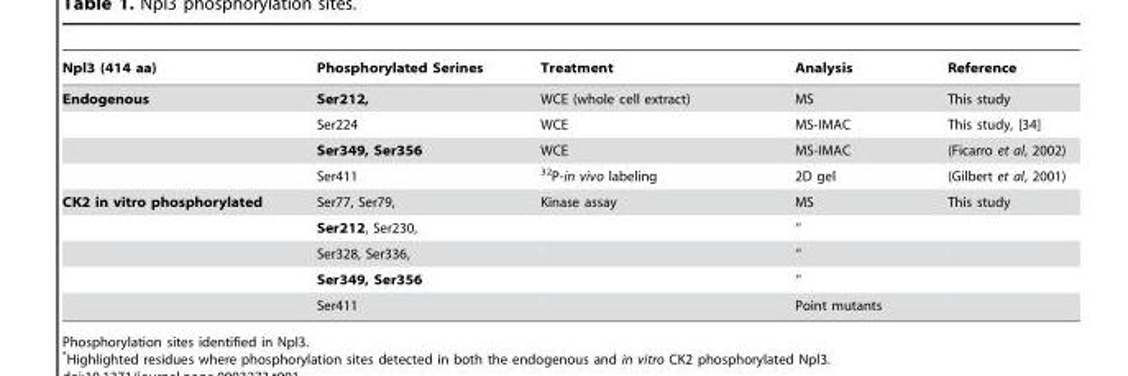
<table><thead><tr><td>Npl3 (414 aa)</td><td>Phosphorylated Serines</td><td>Treatment</td><td>Analysis</td><td>Reference</td></tr></thead><tbody><tr><td rowspan="4">Endogenous</td><td>Ser212,</td><td>WCE (whole cell extract)</td><td>MS</td><td>This study</td></tr><tr><td>Ser224</td><td>WCE</td><td>MS-IMAC</td><td>This study, [34]</td></tr><tr><td>Ser349, Ser356</td><td>WCE</td><td>MS-IMAC</td><td>(Ficarro et al, 2002)</td></tr><tr><td>Ser411</td><td><sup>32</sup>P-in vivo labeling</td><td>2D gel</td><td>(Gilbert et al, 2001)</td></tr><tr><td rowspan="5">CK2 in vitro phosphorylated</td><td>Ser77, Ser79,</td><td>Kinase assay</td><td>MS</td><td>This study</td></tr><tr><td>Ser212, Ser230,</td><td></td><td>‘‘</td><td></td></tr><tr><td>Ser328, Ser336,</td><td></td><td>‘‘</td><td></td></tr><tr><td>Ser349, Ser356</td><td></td><td>‘‘</td><td></td></tr><tr><td>Ser411</td><td></td><td>Point mutants</td><td></td></tr></tbody></table>